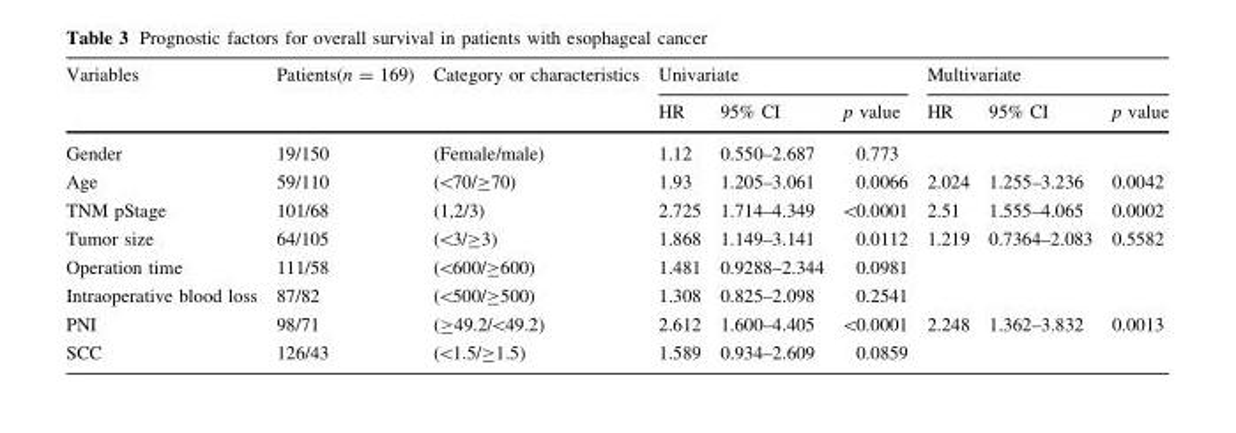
<table><thead><tr><td rowspan="2">Variables</td><td rowspan="2">Patients(n = 169)</td><td rowspan="2">Category or characteristics</td><td colspan="3">Univariate</td><td colspan="3">Multivariate</td></tr><tr><td>HR</td><td>95% CI</td><td>p value</td><td>HR</td><td>95% CI</td><td>p value</td></tr></thead><tbody><tr><td>Gender</td><td>19/150</td><td>(Female/male)</td><td>1.12</td><td>0.550–2.687</td><td>0.773</td><td></td><td></td><td></td></tr><tr><td>Age</td><td>59/110</td><td>(&lt;70/≥70)</td><td>1.93</td><td>1.205–3.061</td><td>0.0066</td><td>2.024</td><td>1.255–3.236</td><td>0.0042</td></tr><tr><td>TNM pStage</td><td>101/68</td><td>(1,2/3)</td><td>2.725</td><td>1.714–4.349</td><td>&lt;0.0001</td><td>2.51</td><td>1.555–4.065</td><td>0.0002</td></tr><tr><td>Tumor size</td><td>64/105</td><td>(&lt;3/≥3)</td><td>1.868</td><td>1.149–3.141</td><td>0.0112</td><td>1.219</td><td>0.7364–2.083</td><td>0.5582</td></tr><tr><td>Operation time</td><td>111/58</td><td>(&lt;600/≥600)</td><td>1.481</td><td>0.9288–2.344</td><td>0.0981</td><td></td><td></td><td></td></tr><tr><td>Intraoperative blood loss</td><td>87/82</td><td>(&lt;500/≥500)</td><td>1.308</td><td>0.825–2.098</td><td>0.2541</td><td></td><td></td><td></td></tr><tr><td>PNI</td><td>98/71</td><td>(≥49.2/&lt;49.2)</td><td>2.612</td><td>1.600–4.405</td><td>&lt;0.0001</td><td>2.248</td><td>1.362–3.832</td><td>0.0013</td></tr><tr><td>SCC</td><td>126/43</td><td>(&lt;1.5/≥1.5)</td><td>1.589</td><td>0.934–2.609</td><td>0.0859</td><td></td><td></td><td></td></tr></tbody></table>